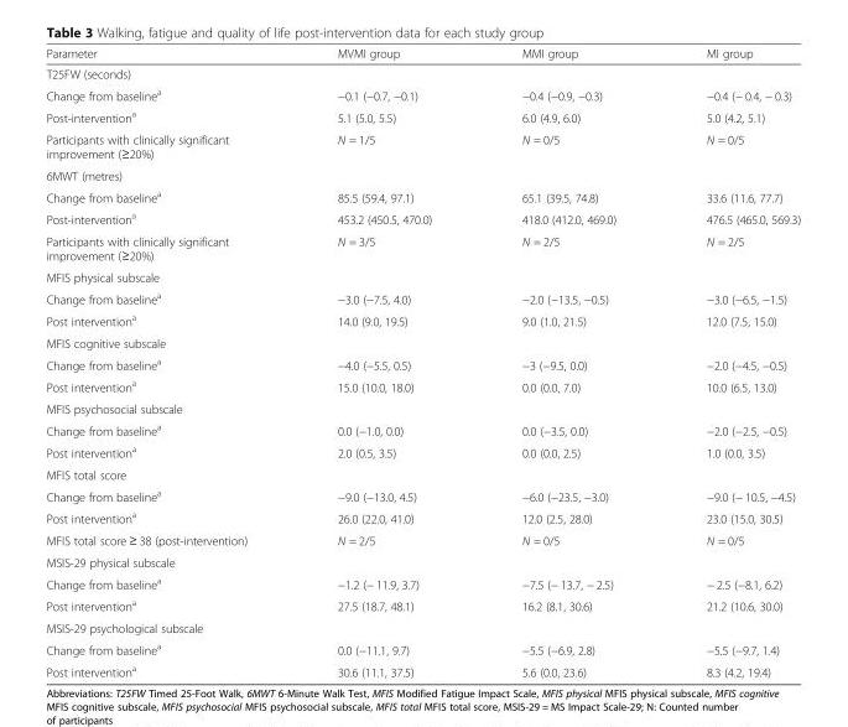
<table><thead><tr><td>Parameter</td><td>MVMI group</td><td>MMI group</td><td>MI group</td></tr></thead><tbody><tr><td colspan="4">T25FW (seconds)</td></tr><tr><td>Change from baseline<sup>a</sup></td><td>−0.1 (−0.7, −0.1)</td><td>−0.4 (−0.9, −0.3)</td><td>−0.4 (− 0.4, − 0.3)</td></tr><tr><td>Post-intervention<sup>a</sup></td><td>5.1 (5.0, 5.5)</td><td>6.0 (4.9, 6.0)</td><td>5.0 (4.2, 5.1)</td></tr><tr><td>Participants with clinically significant improvement (≥20%)</td><td>N = 1/5</td><td>N = 0/5</td><td>N = 0/5</td></tr><tr><td colspan="4">6MWT (metres)</td></tr><tr><td>Change from baseline<sup>a</sup></td><td>85.5 (59.4, 97.1)</td><td>65.1 (39.5, 74.8)</td><td>33.6 (11.6, 77.7)</td></tr><tr><td>Post-intervention<sup>a</sup></td><td>453.2 (450.5, 470.0)</td><td>418.0 (412.0, 469.0)</td><td>476.5 (465.0, 569.3)</td></tr><tr><td>Participants with clinically significant improvement (≥20%)</td><td>N = 3/5</td><td>N = 2/5</td><td>N = 2/5</td></tr><tr><td colspan="4">MFIS physical subscale</td></tr><tr><td>Change from baseline<sup>a</sup></td><td>−3.0 (−7.5, 4.0)</td><td>−2.0 (−13.5, −0.5)</td><td>−3.0 (−6.5, −1.5)</td></tr><tr><td>Post intervention<sup>a</sup></td><td>14.0 (9.0, 19.5)</td><td>9.0 (1.0, 21.5)</td><td>12.0 (7.5, 15.0)</td></tr><tr><td colspan="4">MFIS cognitive subscale</td></tr><tr><td>Change from baseline<sup>a</sup></td><td>−4.0 (−5.5, 0.5)</td><td>−3 (−9.5, 0.0)</td><td>−2.0 (−4.5, −0.5)</td></tr><tr><td>Post intervention<sup>a</sup></td><td>15.0 (10.0, 18.0)</td><td>0.0 (0.0, 7.0)</td><td>10.0 (6.5, 13.0)</td></tr><tr><td colspan="4">MFIS psychosocial subscale</td></tr><tr><td>Change from baseline<sup>a</sup></td><td>0.0 (−1.0, 0.0)</td><td>0.0 (−3.5, 0.0)</td><td>−2.0 (−2.5, −0.5)</td></tr><tr><td>Post intervention<sup>a</sup></td><td>2.0 (0.5, 3.5)</td><td>0.0 (0.0, 2.5)</td><td>1.0 (0.0, 3.5)</td></tr><tr><td colspan="4">MFIS total score</td></tr><tr><td>Change from baseline<sup>a</sup></td><td>−9.0 (−13.0, 4.5)</td><td>−6.0 (−23.5, −3.0)</td><td>−9.0 (− 10.5, −4.5)</td></tr><tr><td>Post intervention<sup>a</sup></td><td>26.0 (22.0, 41.0)</td><td>12.0 (2.5, 28.0)</td><td>23.0 (15.0, 30.5)</td></tr><tr><td>MFIS total score ≥ 38 (post-intervention)</td><td>N = 2/5</td><td>N = 0/5</td><td>N = 0/5</td></tr><tr><td colspan="4">MSIS-29 physical subscale</td></tr><tr><td>Change from baseline<sup>a</sup></td><td>−1.2 (− 11.9, 3.7)</td><td>−7.5 (− 13.7, − 2.5)</td><td>− 2.5 (−8.1, 6.2)</td></tr><tr><td>Post intervention<sup>a</sup></td><td>27.5 (18.7, 48.1)</td><td>16.2 (8.1, 30.6)</td><td>21.2 (10.6, 30.0)</td></tr><tr><td colspan="4">MSIS-29 psychological subscale</td></tr><tr><td>Change from baseline<sup>a</sup></td><td>0.0 (−11.1, 9.7)</td><td>−5.5 (−6.9, 2.8)</td><td>−5.5 (−9.7, 1.4)</td></tr><tr><td>Post intervention<sup>a</sup></td><td>30.6 (11.1, 37.5)</td><td>5.6 (0.0, 23.6)</td><td>8.3 (4.2, 19.4)</td></tr></tbody></table>